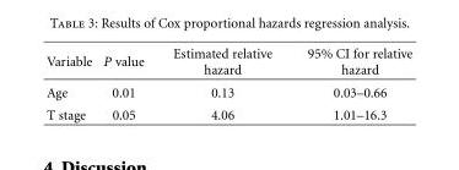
<table><thead><tr><td>Variable</td><td>P value</td><td>Estimated relative hazard</td><td>95% CI for relative hazard</td></tr></thead><tbody><tr><td>Age</td><td>0.01</td><td>0.13</td><td>0.03–0.66</td></tr><tr><td>T stage</td><td>0.05</td><td>4.06</td><td>1.01–16.3</td></tr></tbody></table>